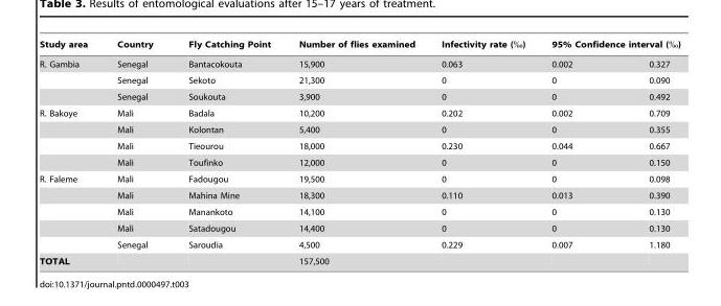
<table><thead><tr><td rowspan="2">Study area R. Gambia</td><td rowspan="2">Country Senegal</td><td rowspan="2">Fly Catching Point Bantacokouta</td><td rowspan="2">Number of flies examined 15,900</td><td rowspan="2">Infectivity rate (‰) 0.063</td><td colspan="2">95% Confidence interval (‰)</td></tr><tr><td>0.002</td><td>0.327</td></tr></thead><tbody><tr><td></td><td>Senegal</td><td>Sekoto</td><td>21,300</td><td>0</td><td>0</td><td>0.090</td></tr><tr><td></td><td>Senegal</td><td>Soukouta</td><td>3,900</td><td>0</td><td>0</td><td>0.492</td></tr><tr><td rowspan="4">R. Bakoye</td><td>Mali</td><td>Badala</td><td>10,200</td><td>0.202</td><td>0.002</td><td>0.709</td></tr><tr><td>Mali</td><td>Kolontan</td><td>5,400</td><td>0</td><td>0</td><td>0.355</td></tr><tr><td>Mali</td><td>Tieourou</td><td>18,000</td><td>0.230</td><td>0.044</td><td>0.667</td></tr><tr><td>Mali</td><td>Toufinko</td><td>12,000</td><td>0</td><td>0</td><td>0.150</td></tr><tr><td rowspan="5">R. Faleme</td><td>Mali</td><td>Fadougou</td><td>19,500</td><td>0</td><td>0</td><td>0.098</td></tr><tr><td>Mali</td><td>Mahina Mine</td><td>18,300</td><td>0.110</td><td>0.013</td><td>0.390</td></tr><tr><td>Mali</td><td>Manankoto</td><td>14,100</td><td>0</td><td>0</td><td>0.130</td></tr><tr><td>Mali</td><td>Satadougou</td><td>14,400</td><td>0</td><td>0</td><td>0.130</td></tr><tr><td>Senegal</td><td>Saroudia</td><td>4,500</td><td>0.229</td><td>0.007</td><td>1.180</td></tr><tr><td>TOTAL</td><td></td><td></td><td>157,500</td><td></td><td></td><td></td></tr></tbody></table>